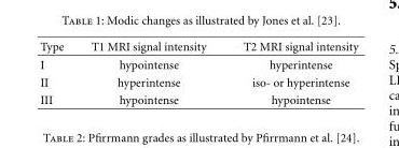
<table><thead><tr><td>Type</td><td>T1 MRI signal intensity</td><td>T2 MRI signal intensity</td></tr></thead><tbody><tr><td>I</td><td>hypointense</td><td>hyperintense</td></tr><tr><td>II</td><td>hyperintense</td><td>iso- or hyperintense</td></tr><tr><td>III</td><td>hypointense</td><td>hypointense</td></tr></tbody></table>